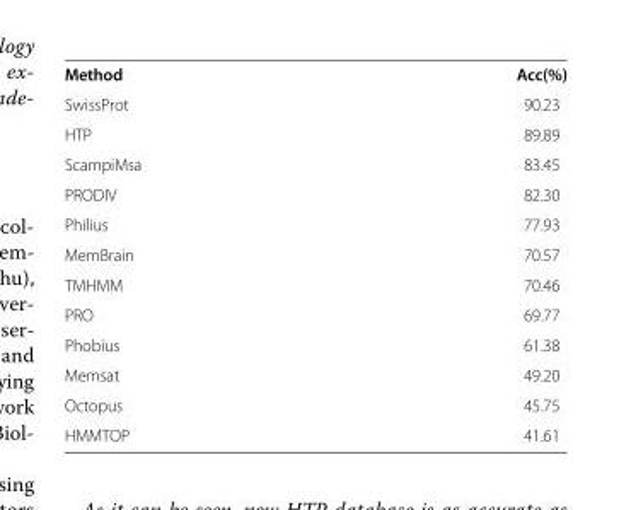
<table><tbody><tr><td>Method</td><td>Acc(%)</td></tr><tr><td>SwissProt</td><td>90.23</td></tr><tr><td>HTP</td><td>89.89</td></tr><tr><td>ScampiMsa</td><td>83.45</td></tr><tr><td>PRODIV</td><td>82.30</td></tr><tr><td>Philius</td><td>77.93</td></tr><tr><td>MemBrain</td><td>70.57</td></tr><tr><td>TMHMM</td><td>70.46</td></tr><tr><td>PRO</td><td>69.77</td></tr><tr><td>Phobius</td><td>61.38</td></tr><tr><td>Memsat</td><td>49.20</td></tr><tr><td>Octopus</td><td>45.75</td></tr><tr><td>HMMTOP</td><td>41.61</td></tr></tbody></table>